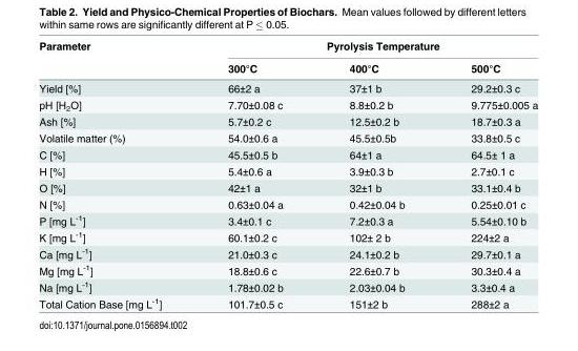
<table><thead><tr><td rowspan="2">Parameter</td><td colspan="3">Pyrolysis Temperature</td></tr><tr><td>300°C</td><td>400°C</td><td>500°C</td></tr></thead><tbody><tr><td>Yield [%]</td><td>66±2 a</td><td>37±1 b</td><td>29.2±0.3 c</td></tr><tr><td>pH [H<sub>2</sub>O]</td><td>7.70±0.08 c</td><td>8.8±0.2 b</td><td>9.775±0.005 a</td></tr><tr><td>Ash [%]</td><td>5.7±0.2 c</td><td>12.5±0.2 b</td><td>18.7±0.3 a</td></tr><tr><td>Volatile matter (%)</td><td>54.0±0.6 a</td><td>45.5±0.5b</td><td>33.8±0.5 c</td></tr><tr><td>C [%]</td><td>45.5±0.5 b</td><td>64±1 a</td><td>64.5± 1 a</td></tr><tr><td>H [%]</td><td>5.4±0.6 a</td><td>3.9±0.3 b</td><td>2.7±0.1 c</td></tr><tr><td>O [%]</td><td>42±1 a</td><td>32±1 b</td><td>33.1±0.4 b</td></tr><tr><td>N [%]</td><td>0.63±0.04 a</td><td>0.42±0.04 b</td><td>0.25±0.01 c</td></tr><tr><td>P [mg L<sup>-1</sup>]</td><td>3.4±0.1 c</td><td>7.2±0.3 a</td><td>5.54±0.10 b</td></tr><tr><td>K [mg L<sup>-1</sup>]</td><td>60.1±0.2 c</td><td>102± 2 b</td><td>224±2 a</td></tr><tr><td>Ca [mg L<sup>-1</sup>]</td><td>21.0±0.3 c</td><td>24.1±0.2 b</td><td>29.7±0.1 a</td></tr><tr><td>Mg [mg L<sup>-1</sup>]</td><td>18.8±0.6 c</td><td>22.6±0.7 b</td><td>30.3±0.4 a</td></tr><tr><td>Na [mg L<sup>-1</sup>]</td><td>1.78±0.02 b</td><td>2.03±0.04 b</td><td>3.3±0.4 a</td></tr><tr><td>Total Cation Base [mg L<sup>-1</sup>]</td><td>101.7±0.5 c</td><td>151±2 b</td><td>288±2 a</td></tr></tbody></table>